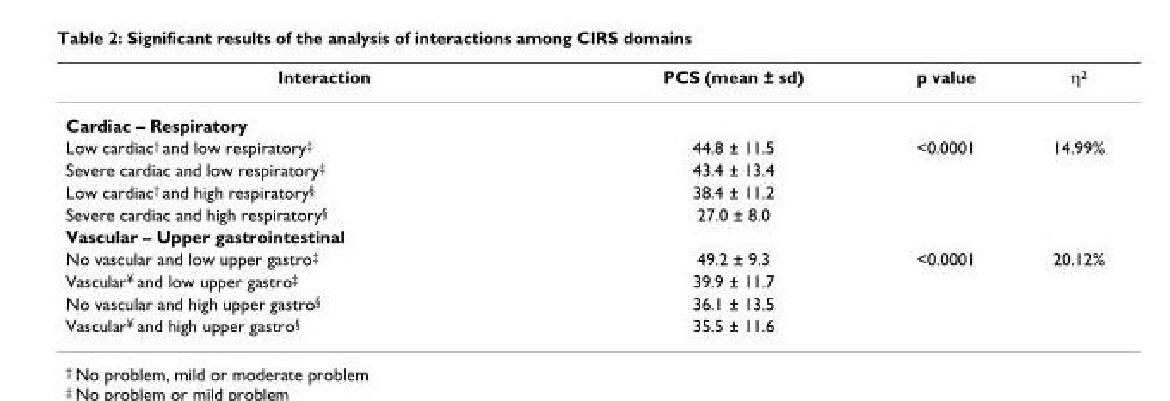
<table><thead><tr><td>Interaction</td><td>PCS (mean ± sd)</td><td>p value</td><td>η<sup>2</sup></td></tr></thead><tbody><tr><td colspan="4">Cardiac – Respiratory</td></tr><tr><td>Low cardiac<sup>†</sup> and low respiratory<sup>‡</sup></td><td>44.8 ± 11.5</td><td>&lt;0.0001</td><td>14.99%</td></tr><tr><td>Severe cardiac and low respiratory<sup>‡</sup></td><td>43.4 ± 13.4</td><td></td><td></td></tr><tr><td>Low cardiac<sup>†</sup> and high respiratory<sup>§</sup></td><td>38.4 ± 11.2</td><td></td><td></td></tr><tr><td>Severe cardiac and high respiratory<sup>§</sup></td><td>27.0 ± 8.0</td><td></td><td></td></tr><tr><td colspan="4">Vascular – Upper gastrointestinal</td></tr><tr><td>No vascular and low upper gastro<sup>‡</sup></td><td>49.2 ± 9.3</td><td>&lt;0.0001</td><td>20.12%</td></tr><tr><td>Vascular<sup>¥</sup> and low upper gastro<sup>‡</sup></td><td>39.9 ± 11.7</td><td></td><td></td></tr><tr><td>No vascular and high upper gastro<sup>§</sup></td><td>36.1 ± 13.5</td><td></td><td></td></tr><tr><td>Vascular<sup>¥</sup> and high upper gastro<sup>§</sup></td><td>35.5 ± 11.6</td><td></td><td></td></tr></tbody></table>